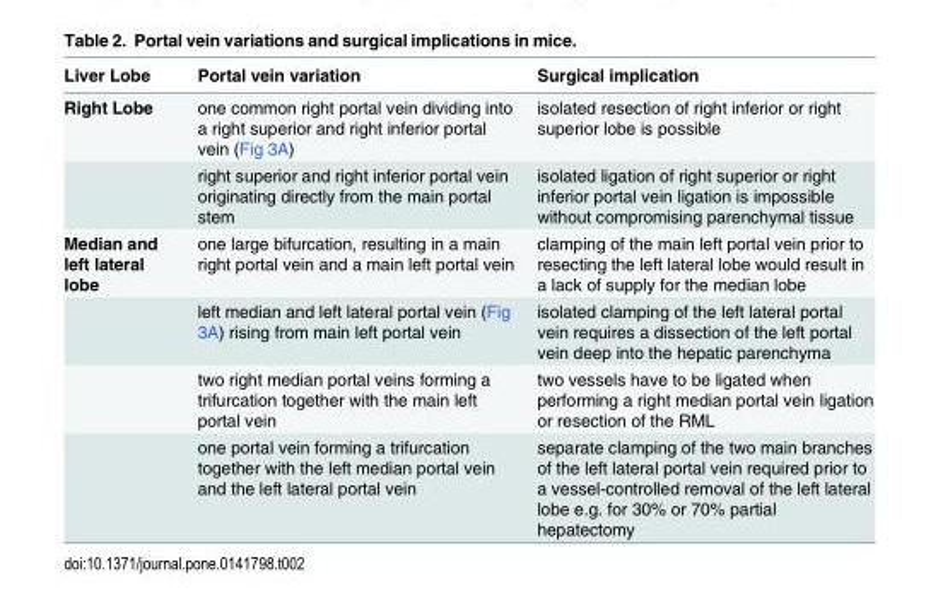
<table><thead><tr><td>Liver Lobe</td><td>Portal vein variation</td><td>Surgical implication</td></tr></thead><tbody><tr><td rowspan="2">Right Lobe</td><td>one common right portal vein dividing into a right superior and right inferior portal vein (Fig 3A)</td><td>isolated resection of right inferior or right superior lobe is possible</td></tr><tr><td>right superior and right inferior portal vein originating directly from the main portal stem</td><td>isolated ligation of right superior or right inferior portal vein ligation is impossible without compromising parenchymal tissue</td></tr><tr><td rowspan="4">Median and left lateral lobe</td><td>one large bifurcation, resulting in a main right portal vein and a main left portal vein</td><td>clamping of the main left portal vein prior to resecting the left lateral lobe would result in a lack of supply for the median lobe</td></tr><tr><td>left median and left lateral portal vein (Fig 3A) rising from main left portal vein</td><td>isolated clamping of the left lateral portal vein requires a dissection of the left portal vein deep into the hepatic parenchyma</td></tr><tr><td>two right median portal veins forming a trifurcation together with the main left portal vein</td><td>two vessels have to be ligated when performing a right median portal vein ligation or resection of the RML</td></tr><tr><td>one portal vein forming a trifurcation together with the left median portal vein and the left lateral portal vein</td><td>separate clamping of the two main branches of the left lateral portal vein required prior to a vessel-controlled removal of the left lateral lobe e.g. for 30% or 70% partial hepatectomy</td></tr></tbody></table>